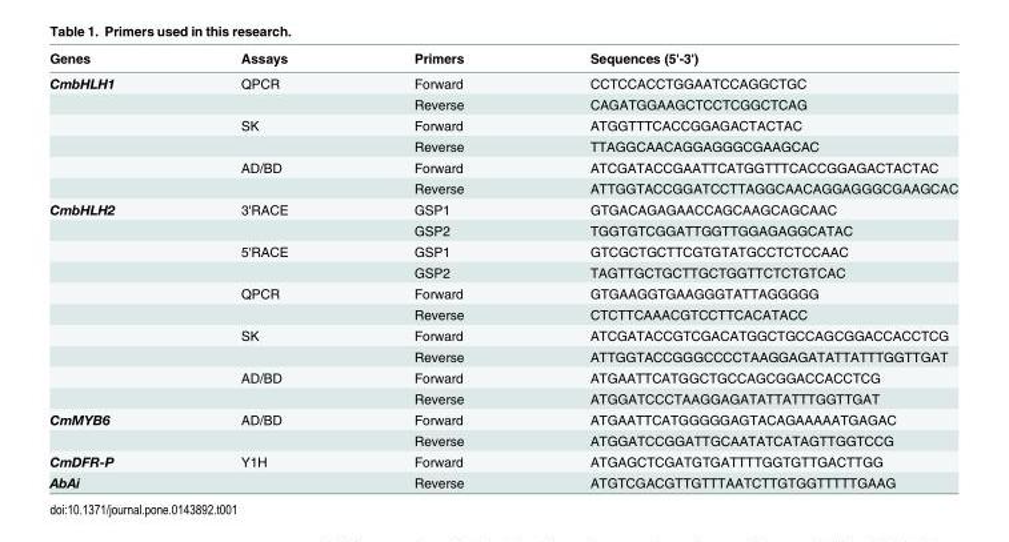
<table><thead><tr><td>Genes</td><td>Assays</td><td>Primers</td><td>Sequences (5&#x27;-3&#x27;)</td></tr></thead><tbody><tr><td rowspan="6">CmbHLH1</td><td>QPCR</td><td>Forward</td><td>CCTCCACCTGGAATCCAGGCTGC</td></tr><tr><td></td><td>Reverse</td><td>CAGATGGAAGCTCCTCGGCTCAG</td></tr><tr><td>SK</td><td>Forward</td><td>ATGGTTTCACCGGAGACTACTAC</td></tr><tr><td></td><td>Reverse</td><td>TTAGGCAACAGGAGGGCGAAGCAC</td></tr><tr><td>AD/BD</td><td>Forward</td><td>ATCGATACCGAATTCATGGTTTCACCGGAGACTACTAC</td></tr><tr><td></td><td>Reverse</td><td>ATTGGTACCGGATCCTTAGGCAACAGGAGGGCGAAGCAC</td></tr><tr><td rowspan="10">CmbHLH2</td><td>3&#x27;RACE</td><td>GSP1</td><td>GTGACAGAGAACCAGCAAGCAGCAAC</td></tr><tr><td></td><td>GSP2</td><td>TGGTGTCGGATTGGTTGGAGAGGCATAC</td></tr><tr><td>5&#x27;RACE</td><td>GSP1</td><td>GTCGCTGCTTCGTGTATGCCTCTCCAAC</td></tr><tr><td></td><td>GSP2</td><td>TAGTTGCTGCTTGCTGGTTCTCTGTCAC</td></tr><tr><td>QPCR</td><td>Forward</td><td>GTGAAGGTGAAGGGTATTAGGGGG</td></tr><tr><td></td><td>Reverse</td><td>CTCTTCAAACGTCCTTCACATACC</td></tr><tr><td>SK</td><td>Forward</td><td>ATCGATACCGTCGACATGGCTGCCAGCGGACCACCTCG</td></tr><tr><td></td><td>Reverse</td><td>ATTGGTACCGGGCCCCTAAGGAGATATTATTTGGTTGAT</td></tr><tr><td>AD/BD</td><td>Forward</td><td>ATGAATTCATGGCTGCCAGCGGACCACCTCG</td></tr><tr><td></td><td>Reverse</td><td>ATGGATCCCTAAGGAGATATTATTTGGTTGAT</td></tr><tr><td rowspan="2">CmMYB6</td><td>AD/BD</td><td>Forward</td><td>ATGAATTCATGGGGGAGTACAGAAAAATGAGAC</td></tr><tr><td></td><td>Reverse</td><td>ATGGATCCGGATTGCAATATCATAGTTGGTCCG</td></tr><tr><td>CmDFR-P</td><td>Y1H</td><td>Forward</td><td>ATGAGCTCGATGTGATTTTGGTGTTGACTTGG</td></tr><tr><td>AbAi</td><td></td><td>Reverse</td><td>ATGTCGACGTTGTTTAATCTTGTGGTTTTTGAAG</td></tr></tbody></table>